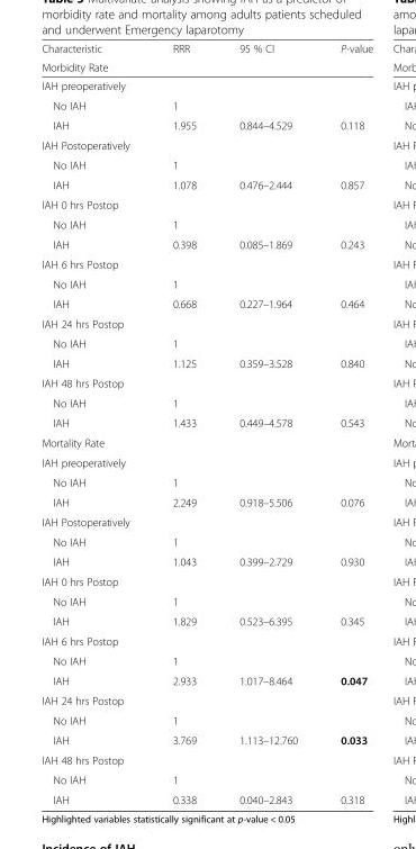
<table><thead><tr><td>Characteristic</td><td>RRR</td><td>95 % CI</td><td>P-value</td></tr><tr><td colspan="4">Morbidity Rate</td></tr></thead><tbody><tr><td colspan="4">IAH preoperatively</td></tr><tr><td>No IAH</td><td>1</td><td></td><td></td></tr><tr><td>IAH</td><td>1.955</td><td>0.844–4.529</td><td>0.118</td></tr><tr><td colspan="4">IAH Postoperatively</td></tr><tr><td>No IAH</td><td>1</td><td></td><td></td></tr><tr><td>IAH</td><td>1.078</td><td>0.476–2.444</td><td>0.857</td></tr><tr><td colspan="4">IAH 0 hrs Postop</td></tr><tr><td>No IAH</td><td>1</td><td></td><td></td></tr><tr><td>IAH</td><td>0.398</td><td>0.085–1.869</td><td>0.243</td></tr><tr><td colspan="4">IAH 6 hrs Postop</td></tr><tr><td>No IAH</td><td>1</td><td></td><td></td></tr><tr><td>IAH</td><td>0.668</td><td>0.227–1.964</td><td>0.464</td></tr><tr><td colspan="4">IAH 24 hrs Postop</td></tr><tr><td>No IAH</td><td>1</td><td></td><td></td></tr><tr><td>IAH</td><td>1.125</td><td>0.359–3.528</td><td>0.840</td></tr><tr><td colspan="4">IAH 48 hrs Postop</td></tr><tr><td>No IAH</td><td>1</td><td></td><td></td></tr><tr><td>IAH</td><td>1.433</td><td>0.449–4.578</td><td>0.543</td></tr><tr><td colspan="4">Mortality Rate</td></tr><tr><td colspan="4">IAH preoperatively</td></tr><tr><td>No IAH</td><td>1</td><td></td><td></td></tr><tr><td>IAH</td><td>2.249</td><td>0.918–5.506</td><td>0.076</td></tr><tr><td colspan="4">IAH Postoperatively</td></tr><tr><td>No IAH</td><td>1</td><td></td><td></td></tr><tr><td>IAH</td><td>1.043</td><td>0.399–2.729</td><td>0.930</td></tr><tr><td colspan="4">IAH 0 hrs Postop</td></tr><tr><td>No IAH</td><td>1</td><td></td><td></td></tr><tr><td>IAH</td><td>1.829</td><td>0.523–6.395</td><td>0.345</td></tr><tr><td colspan="4">IAH 6 hrs Postop</td></tr><tr><td>No IAH</td><td>1</td><td></td><td></td></tr><tr><td>IAH</td><td>2.933</td><td>1.017–8.464</td><td>0.047</td></tr><tr><td colspan="4">IAH 24 hrs Postop</td></tr><tr><td>No IAH</td><td>1</td><td></td><td></td></tr><tr><td>IAH</td><td>3.769</td><td>1.113–12.760</td><td>0.033</td></tr><tr><td colspan="4">IAH 48 hrs Postop</td></tr><tr><td>No IAH</td><td>1</td><td></td><td></td></tr><tr><td>IAH</td><td>0.338</td><td>0.040–2.843</td><td>0.318</td></tr></tbody></table>